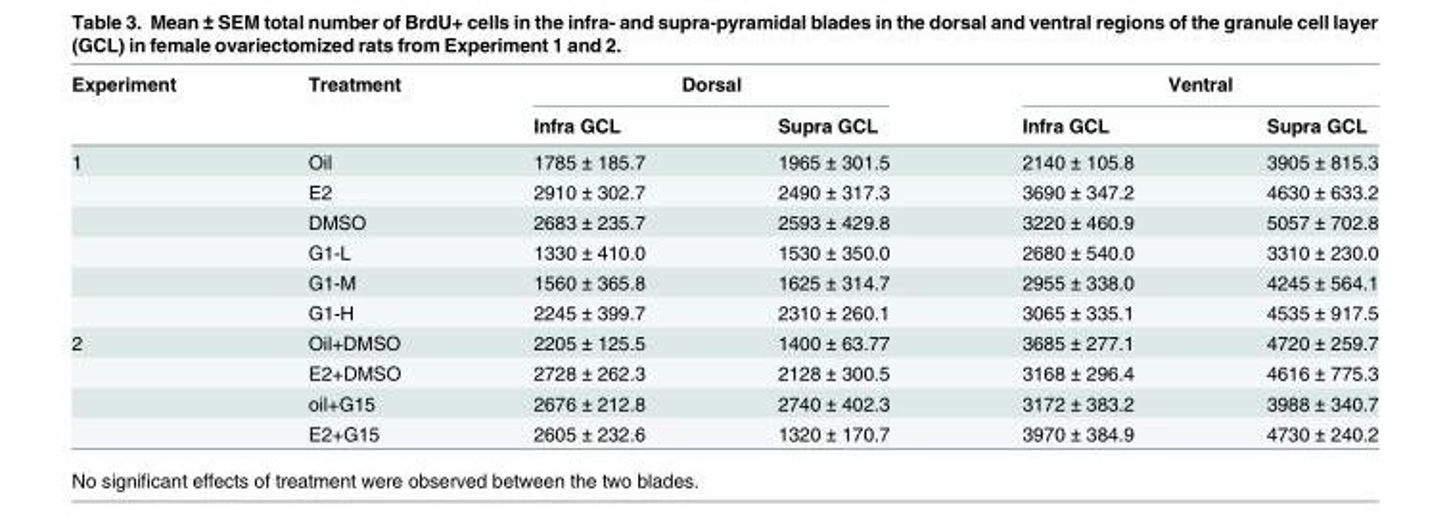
<table><thead><tr><td rowspan="2">Experiment</td><td rowspan="2">Treatment</td><td colspan="2">Dorsal</td><td colspan="2">Ventral</td></tr><tr><td>Infra GCL</td><td>Supra GCL</td><td>Infra GCL</td><td>Supra GCL</td></tr></thead><tbody><tr><td rowspan="6">1</td><td>Oil</td><td>1785 ± 185.7</td><td>1965 ± 301.5</td><td>2140 ± 105.8</td><td>3905 ± 815.3</td></tr><tr><td>E2</td><td>2910 ± 302.7</td><td>2490 ± 317.3</td><td>3690 ± 347.2</td><td>4630 ± 633.2</td></tr><tr><td>DMSO</td><td>2683 ± 235.7</td><td>2593 ± 429.8</td><td>3220 ± 460.9</td><td>5057 ± 702.8</td></tr><tr><td>G1-L</td><td>1330 ± 410.0</td><td>1530 ± 350.0</td><td>2680 ± 540.0</td><td>3310 ± 230.0</td></tr><tr><td>G1-M</td><td>1560 ± 365.8</td><td>1625 ± 314.7</td><td>2955 ± 338.0</td><td>4245 ± 564.1</td></tr><tr><td>G1-H</td><td>2245 ± 399.7</td><td>2310 ± 260.1</td><td>3065 ± 335.1</td><td>4535 ± 917.5</td></tr><tr><td rowspan="4">2</td><td>Oil+DMSO</td><td>2205 ± 125.5</td><td>1400 ± 63.77</td><td>3685 ± 277.1</td><td>4720 ± 259.7</td></tr><tr><td>E2+DMSO</td><td>2728 ± 262.3</td><td>2128 ± 300.5</td><td>3168 ± 296.4</td><td>4616 ± 775.3</td></tr><tr><td>oil+G15</td><td>2676 ± 212.8</td><td>2740 ± 402.3</td><td>3172 ± 383.2</td><td>3988 ± 340.7</td></tr><tr><td>E2+G15</td><td>2605 ± 232.6</td><td>1320 ± 170.7</td><td>3970 ± 384.9</td><td>4730 ± 240.2</td></tr></tbody></table>